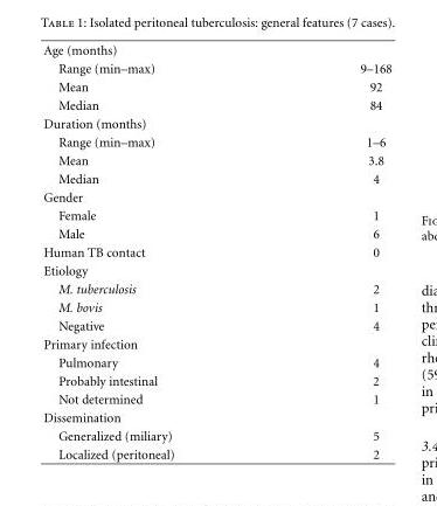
<table><tbody><tr><td colspan="2">Age (months)</td></tr><tr><td>Range (min–max)</td><td>9–168</td></tr><tr><td>Mean</td><td>92</td></tr><tr><td>Median</td><td>84</td></tr><tr><td colspan="2">Duration (months)</td></tr><tr><td>Range (min–max)</td><td>1–6</td></tr><tr><td>Mean</td><td>3.8</td></tr><tr><td>Median</td><td>4</td></tr><tr><td colspan="2">Gender</td></tr><tr><td>Female</td><td>1</td></tr><tr><td>Male</td><td>6</td></tr><tr><td>Human TB contact</td><td>0</td></tr><tr><td colspan="2">Etiology</td></tr><tr><td>M. tuberculosis</td><td>2</td></tr><tr><td>M. bovis</td><td>1</td></tr><tr><td>Negative</td><td>4</td></tr><tr><td colspan="2">Primary infection</td></tr><tr><td>Pulmonary</td><td>4</td></tr><tr><td>Probably intestinal</td><td>2</td></tr><tr><td>Not determined</td><td>1</td></tr><tr><td colspan="2">Dissemination</td></tr><tr><td>Generalized (miliary)</td><td>5</td></tr><tr><td>Localized (peritoneal)</td><td>2</td></tr></tbody></table>